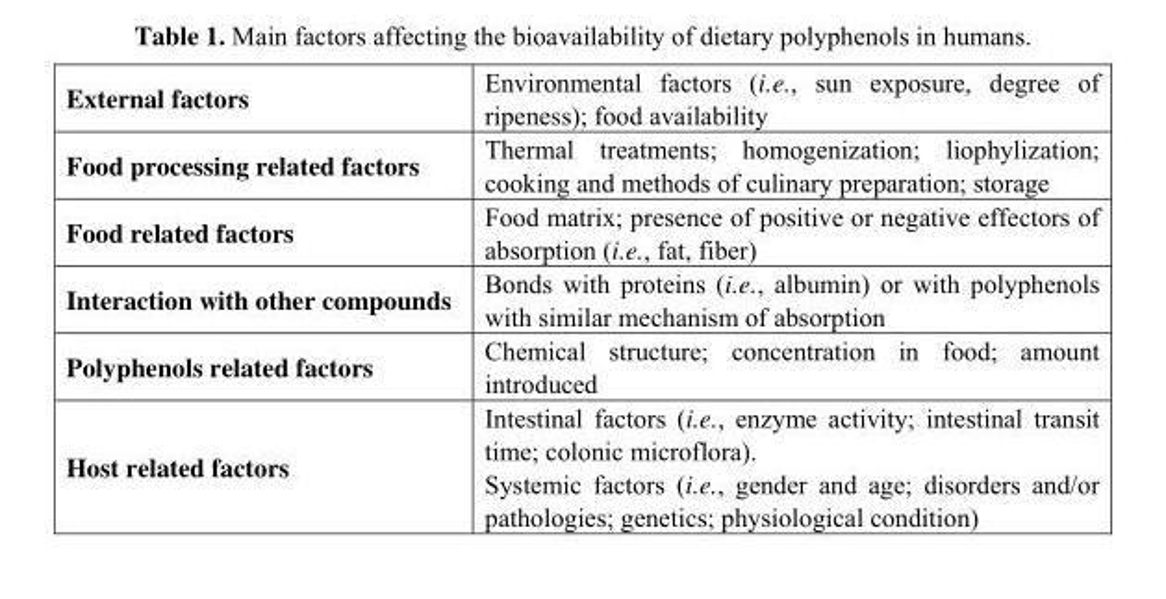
<table><tbody><tr><td>External factors</td><td>Environmental factors (i.e., sun exposure, degree of ripeness); food availability</td></tr><tr><td>Food processing related factors</td><td>Thermal treatments; homogenization; liophylization; cooking and methods of culinary preparation; storage</td></tr><tr><td>Food related factors</td><td>Food matrix; presence of positive or negative effectors of absorption (i.e., fat, fiber)</td></tr><tr><td>Interaction with other compounds</td><td>Bonds with proteins (i.e., albumin) or with polyphenols with similar mechanism of absorption</td></tr><tr><td>Polyphenols related factors</td><td>Chemical structure; concentration in food; amount introduced</td></tr><tr><td>Host related factors</td><td>Intestinal factors (i.e., enzyme activity; intestinal transit time; colonic microflora). Systemic factors (i.e., gender and age; disorders and/or pathologies; genetics; physiological condition)</td></tr></tbody></table>